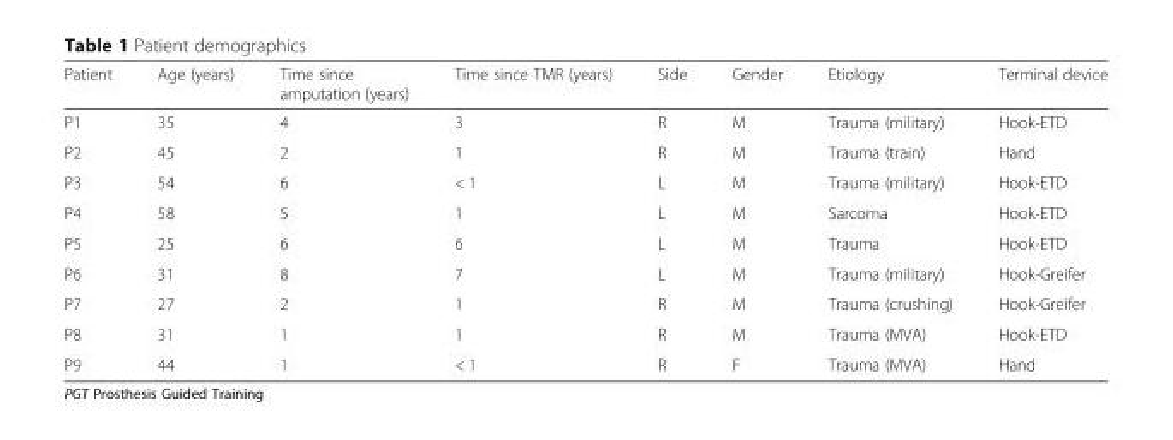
<table><thead><tr><td>Patient</td><td>Age (years)</td><td>Time since amputation (years)</td><td>Time since TMR (years)</td><td>Side</td><td>Gender</td><td>Etiology</td><td>Terminal device</td></tr></thead><tbody><tr><td>P1</td><td>35</td><td>4</td><td>3</td><td>R</td><td>M</td><td>Trauma (military)</td><td>Hook-ETD</td></tr><tr><td>P2</td><td>45</td><td>2</td><td>1</td><td>R</td><td>M</td><td>Trauma (train)</td><td>Hand</td></tr><tr><td>P3</td><td>54</td><td>6</td><td>&lt; 1</td><td>L</td><td>M</td><td>Trauma (military)</td><td>Hook-ETD</td></tr><tr><td>P4</td><td>58</td><td>5</td><td>1</td><td>L</td><td>M</td><td>Sarcoma</td><td>Hook-ETD</td></tr><tr><td>P5</td><td>25</td><td>6</td><td>6</td><td>L</td><td>M</td><td>Trauma</td><td>Hook-ETD</td></tr><tr><td>P6</td><td>31</td><td>8</td><td>7</td><td>L</td><td>M</td><td>Trauma (military)</td><td>Hook-Greifer</td></tr><tr><td>P7</td><td>27</td><td>2</td><td>1</td><td>R</td><td>M</td><td>Trauma (crushing)</td><td>Hook-Greifer</td></tr><tr><td>P8</td><td>31</td><td>1</td><td>1</td><td>R</td><td>M</td><td>Trauma (MVA)</td><td>Hook-ETD</td></tr><tr><td>P9</td><td>44</td><td>1</td><td>&lt; 1</td><td>R</td><td>F</td><td>Trauma (MVA)</td><td>Hand</td></tr></tbody></table>